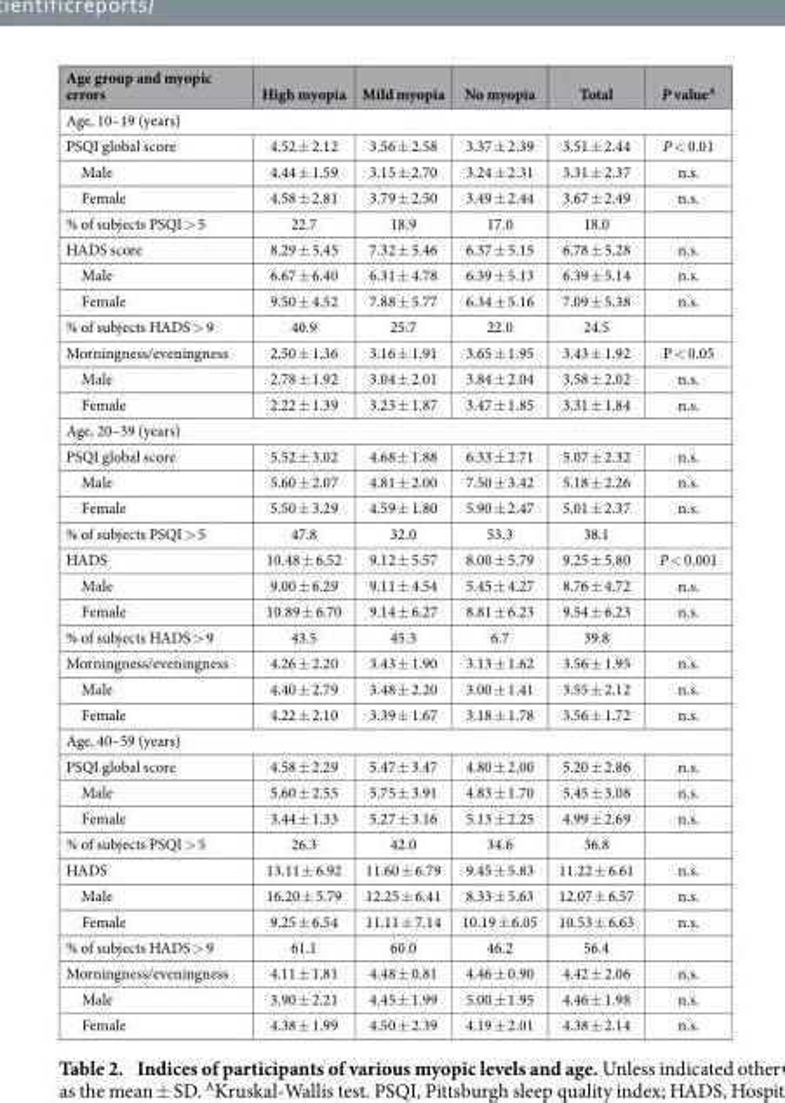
<table><thead><tr><td>Age group and myopic errors</td><td>High myopia</td><td>Mild myopia</td><td>No myopia</td><td>Total</td><td>P value<sup>A</sup></td></tr></thead><tbody><tr><td colspan="6">Age, 10–19 (years)</td></tr><tr><td>PSQI global score</td><td>4.52 ± 2.12</td><td>3.56 ± 2.58</td><td>3.37 ± 2.39</td><td>3.51 ± 2.44</td><td>P &lt; 0.01</td></tr><tr><td>Male</td><td>4.44 ± 1.59</td><td>3.15 ± 2.70</td><td>3.24 ± 2.31</td><td>3.31 ± 2.37</td><td>n.s.</td></tr><tr><td>Female</td><td>4.58 ± 2.81</td><td>3.79 ± 2.50</td><td>3.49 ± 2.44</td><td>3.67 ± 2.49</td><td>n.s.</td></tr><tr><td>% of subjects PSQI &gt; 5</td><td>22.7</td><td>18.9</td><td>17.0</td><td>18.0</td><td></td></tr><tr><td>HADS score</td><td>8.29 ± 5.45</td><td>7.32 ± 5.46</td><td>6.37 ± 5.15</td><td>6.78 ± 5.28</td><td>n.s.</td></tr><tr><td>Male</td><td>6.67 ± 6.40</td><td>6.31 ± 4.78</td><td>6.39 ± 5.13</td><td>6.39 ± 5.14</td><td>n.s.</td></tr><tr><td>Female</td><td>9.50 ± 4.52</td><td>7.88 ± 5.77</td><td>6.34 ± 5.16</td><td>7.09 ± 5.38</td><td>n.s.</td></tr><tr><td>% of subjects HADS &gt; 9</td><td>40.9</td><td>25.7</td><td>22.0</td><td>24.5</td><td></td></tr><tr><td>Morningness/eveningness</td><td>2.50 ± 1.36</td><td>3.16 ± 1.91</td><td>3.65 ± 1.95</td><td>3.43 ± 1.92</td><td>P &lt; 0.05</td></tr><tr><td>Male</td><td>2.78 ± 1.92</td><td>3.04 ± 2.01</td><td>3.84 ± 2.04</td><td>3.58 ± 2.02</td><td>n.s.</td></tr><tr><td>Female</td><td>2.22 ± 1.39</td><td>3.23 ± 1.87</td><td>3.47 ± 1.85</td><td>3.31 ± 1.84</td><td>n.s.</td></tr><tr><td colspan="6">Age, 20–39 (years)</td></tr><tr><td>PSQI global score</td><td>5.52 ± 3.02</td><td>4.68 ± 1.88</td><td>6.33 ± 2.71</td><td>5.07 ± 2.32</td><td>n.s.</td></tr><tr><td>Male</td><td>5.60 ± 2.07</td><td>4.81 ± 2.00</td><td>7.50 ± 3.42</td><td>5.18 ± 2.26</td><td>n.s.</td></tr><tr><td>Female</td><td>5.50 ± 3.29</td><td>4.59 ± 1.80</td><td>5.90 ± 2.47</td><td>5.01 ± 2.37</td><td>n.s.</td></tr><tr><td>% of subjects PSQI &gt; 5</td><td>47.8</td><td>32.0</td><td>53.3</td><td>38.1</td><td></td></tr><tr><td>HADS</td><td>10.48 ± 6.52</td><td>9.12 ± 5.57</td><td>8.00 ± 5.79</td><td>9.25 ± 5.80</td><td>P &lt; 0.001</td></tr><tr><td>Male</td><td>9.00 ± 6.29</td><td>9.11 ± 4.54</td><td>5.45 ± 4.27</td><td>8.76 ± 4.72</td><td>n.s.</td></tr><tr><td>Female</td><td>10.89 ± 6.70</td><td>9.14 ± 6.27</td><td>8.81 ± 6.23</td><td>9.54 ± 6.23</td><td>n.s.</td></tr><tr><td>% of subjects HADS &gt; 9</td><td>43.5</td><td>45.3</td><td>6.7</td><td>39.8</td><td></td></tr><tr><td>Morningness/eveningness</td><td>4.26 ± 2.20</td><td>3.43 ± 1.90</td><td>3.13 ± 1.62</td><td>3.56 ± 1.95</td><td>n.s.</td></tr><tr><td>Male</td><td>4.40 ± 2.79</td><td>3.48 ± 2.20</td><td>3.00 ± 1.41</td><td>3.55 ± 2.12</td><td>n.s.</td></tr><tr><td>Female</td><td>4.22 ± 2.10</td><td>3.39 ± 1.67</td><td>3.18 ± 1.78</td><td>3.56 ± 1.72</td><td>n.s.</td></tr><tr><td colspan="6">Age, 40–59 (years)</td></tr><tr><td>PSQI global score</td><td>4.58 ± 2.29</td><td>5.47 ± 3.47</td><td>4.80 ± 2.00</td><td>5.20 ± 2.86</td><td>n.s.</td></tr><tr><td>Male</td><td>5.60 ± 2.55</td><td>5.75 ± 3.91</td><td>4.83 ± 1.70</td><td>5.45 ± 3.08</td><td>n.s.</td></tr><tr><td>Female</td><td>3.44 ± 1.33</td><td>5.27 ± 3.16</td><td>5.13 ± 2.25</td><td>4.99 ± 2.69</td><td>n.s.</td></tr><tr><td>% of subjects PSQI &gt; 5</td><td>26.3</td><td>42.0</td><td>34.6</td><td>36.8</td><td></td></tr><tr><td>HADS</td><td>13.11 ± 6.92</td><td>11.60 ± 6.79</td><td>9.45 ± 5.83</td><td>11.22 ± 6.61</td><td>n.s.</td></tr><tr><td>Male</td><td>16.20 ± 5.79</td><td>12.25 ± 6.41</td><td>8.33 ± 5.63</td><td>12.07 ± 6.57</td><td>n.s.</td></tr><tr><td>Female</td><td>9.25 ± 6.54</td><td>11.11 ± 7.14</td><td>10.19 ± 6.05</td><td>10.53 ± 6.63</td><td>n.s.</td></tr><tr><td>% of subjects HADS &gt; 9</td><td>61.1</td><td>60.0</td><td>46.2</td><td>56.4</td><td></td></tr><tr><td>Morningness/eveningness</td><td>4.11 ± 1.81</td><td>4.48 ± 0.81</td><td>4.46 ± 0.90</td><td>4.42 ± 2.06</td><td>n.s.</td></tr><tr><td>Male</td><td>3.90 ± 2.21</td><td>4.45 ± 1.99</td><td>5.00 ± 1.95</td><td>4.46 ± 1.98</td><td>n.s.</td></tr><tr><td>Female</td><td>4.38 ± 1.99</td><td>4.50 ± 2.39</td><td>4.19 ± 2.01</td><td>4.38 ± 2.14</td><td>n.s.</td></tr></tbody></table>